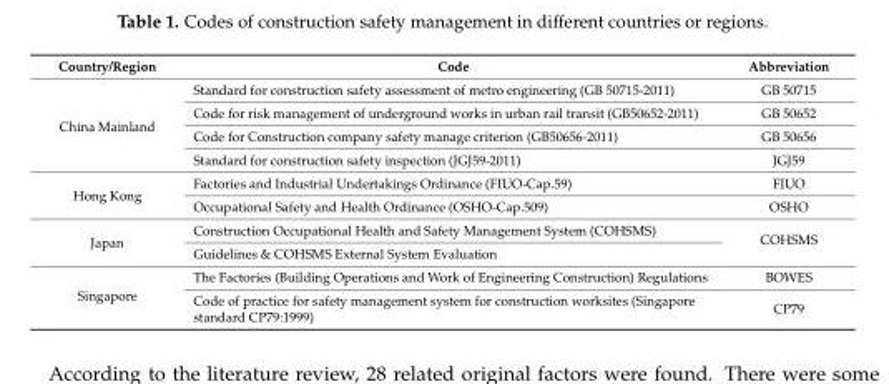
<table><thead><tr><td>Country/Region</td><td>Code</td><td>Abbreviation</td></tr></thead><tbody><tr><td rowspan="4">China Mainland</td><td>Standard for construction safety assessment of metro engineering (GB 50715-2011)</td><td>GB 50715</td></tr><tr><td>Code for risk management of underground works in urban rail transit (GB50652-2011)</td><td>GB 50652</td></tr><tr><td>Code for Construction company safety manage criterion (GB50656-2011)</td><td>GB 50656</td></tr><tr><td>Standard for construction safety inspection (JGJ59-2011)</td><td>JGJ59</td></tr><tr><td rowspan="2">Hong Kong</td><td>Factories and Industrial Undertakings Ordinance (FIUO-Cap.59)</td><td>FIUO</td></tr><tr><td>Occupational Safety and Health Ordinance (OSHO-Cap.509)</td><td>OSHO</td></tr><tr><td rowspan="2">Japan</td><td>Construction Occupational Health and Safety Management System (COHSMS)</td><td rowspan="2">COHSMS</td></tr><tr><td>Guidelines &amp; COHSMS External System Evaluation</td></tr><tr><td rowspan="2">Singapore</td><td>The Factories (Building Operations and Work of Engineering Construction) Regulations</td><td>BOWES</td></tr><tr><td>Code of practice for safety management system for construction worksites (Singapore standard CP79:1999)</td><td>CP79</td></tr></tbody></table>